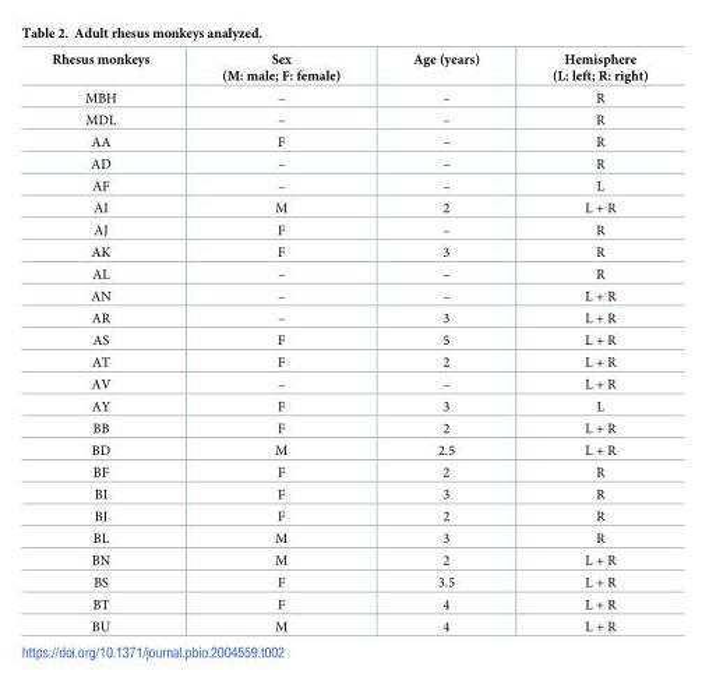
<table><thead><tr><td>Rhesus monkeys</td><td>Sex (M: male; F: female)</td><td>Age (years)</td><td>Hemisphere (L: left; R: right)</td></tr></thead><tbody><tr><td>MBH</td><td>–</td><td>–</td><td>R</td></tr><tr><td>MDL</td><td>–</td><td>–</td><td>R</td></tr><tr><td>AA</td><td>F</td><td>–</td><td>R</td></tr><tr><td>AD</td><td>–</td><td>–</td><td>R</td></tr><tr><td>AF</td><td>–</td><td>–</td><td>L</td></tr><tr><td>AI</td><td>M</td><td>2</td><td>L + R</td></tr><tr><td>AJ</td><td>F</td><td>–</td><td>R</td></tr><tr><td>AK</td><td>F</td><td>3</td><td>R</td></tr><tr><td>AL</td><td>–</td><td>–</td><td>R</td></tr><tr><td>AN</td><td>–</td><td>–</td><td>L + R</td></tr><tr><td>AR</td><td>–</td><td>3</td><td>L + R</td></tr><tr><td>AS</td><td>F</td><td>5</td><td>L + R</td></tr><tr><td>AT</td><td>F</td><td>2</td><td>L + R</td></tr><tr><td>AV</td><td>–</td><td>–</td><td>L + R</td></tr><tr><td>AY</td><td>F</td><td>3</td><td>L</td></tr><tr><td>BB</td><td>F</td><td>2</td><td>L + R</td></tr><tr><td>BD</td><td>M</td><td>2.5</td><td>L + R</td></tr><tr><td>BF</td><td>F</td><td>2</td><td>R</td></tr><tr><td>BI</td><td>F</td><td>3</td><td>R</td></tr><tr><td>BJ</td><td>F</td><td>2</td><td>R</td></tr><tr><td>BL</td><td>M</td><td>3</td><td>R</td></tr><tr><td>BN</td><td>M</td><td>2</td><td>L + R</td></tr><tr><td>BS</td><td>F</td><td>3.5</td><td>L + R</td></tr><tr><td>BT</td><td>F</td><td>4</td><td>L + R</td></tr><tr><td>BU</td><td>M</td><td>4</td><td>L + R</td></tr></tbody></table>